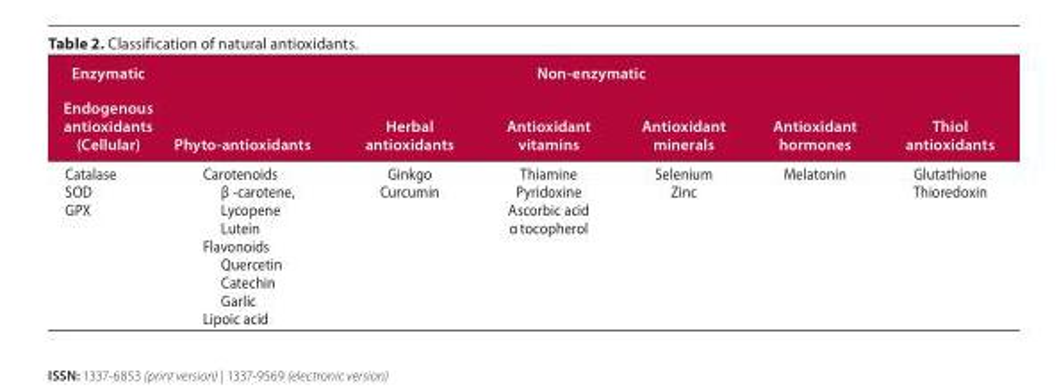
<table><thead><tr><td rowspan="2">Enzymatic Endogenous antioxidants (Cellular)</td><td rowspan="2">Phyto-antioxidants</td><td colspan="5">Non-enzymatic</td></tr><tr><td>Herbal antioxidants</td><td>Antioxidant vitamins</td><td>Antioxidant minerals</td><td>Antioxidant hormones</td><td>Thiol antioxidants</td></tr></thead><tbody><tr><td>Catalase SOD GP X</td><td>Carotenoids β -carotene, Lycopene Lutein Flavonoids Quercetin Catechin Garlic Lipoic acid</td><td>Ginkgo Curcumin</td><td>Thiamine Pyridoxine Ascorbic acid α tocopherol</td><td>Selenium Zinc</td><td>Melatonin</td><td>Glutathione Thioredoxin</td></tr></tbody></table>